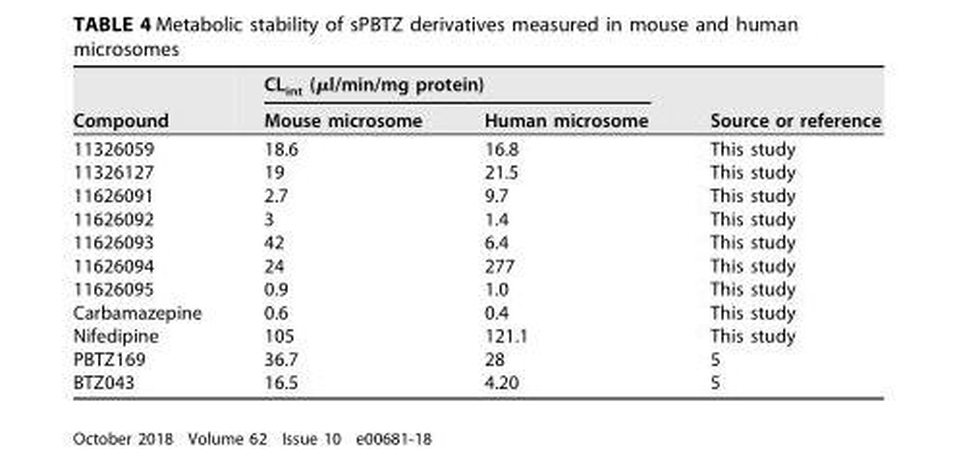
<table><thead><tr><td rowspan="2">Compound</td><td colspan="2">CL<sub>int</sub> (μl/min/mg protein)</td><td rowspan="2">Source or reference</td></tr><tr><td>Mouse microsome</td><td>Human microsome</td></tr></thead><tbody><tr><td>11326059</td><td>18.6</td><td>16.8</td><td>This study</td></tr><tr><td>11326127</td><td>19</td><td>21.5</td><td>This study</td></tr><tr><td>11626091</td><td>2.7</td><td>9.7</td><td>This study</td></tr><tr><td>11626092</td><td>3</td><td>1.4</td><td>This study</td></tr><tr><td>11626093</td><td>42</td><td>6.4</td><td>This study</td></tr><tr><td>11626094</td><td>24</td><td>277</td><td>This study</td></tr><tr><td>11626095</td><td>0.9</td><td>1.0</td><td>This study</td></tr><tr><td>Carbamazepine</td><td>0.6</td><td>0.4</td><td>This study</td></tr><tr><td>Nifedipine</td><td>105</td><td>121.1</td><td>This study</td></tr><tr><td>PBTZ169</td><td>36.7</td><td>28</td><td>5</td></tr><tr><td>BTZ043</td><td>16.5</td><td>4.20</td><td>5</td></tr></tbody></table>